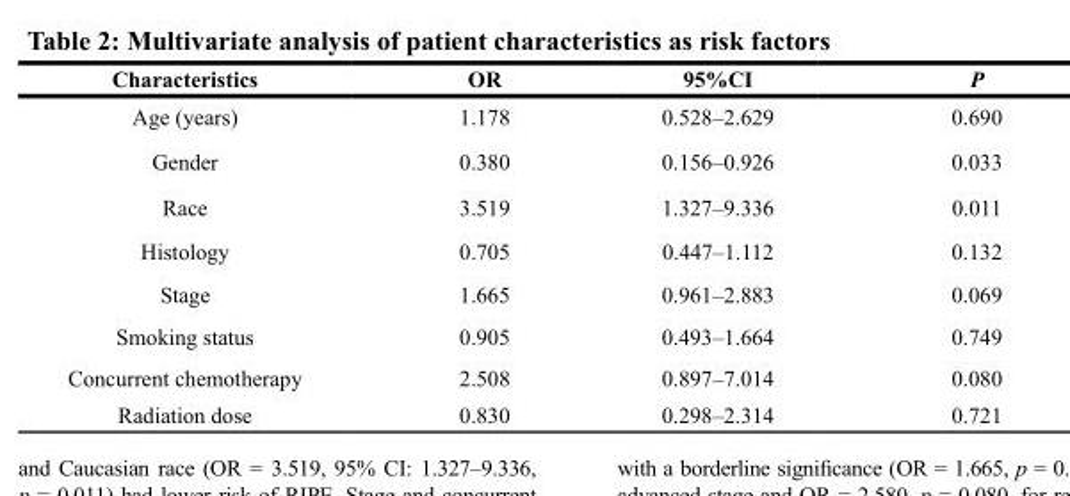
<table><thead><tr><td>Characteristics</td><td>OR</td><td>95%CI</td><td>P</td></tr></thead><tbody><tr><td>Age (years)</td><td>1.178</td><td>0.528–2.629</td><td>0.690</td></tr><tr><td>Gender</td><td>0.380</td><td>0.156–0.926</td><td>0.033</td></tr><tr><td>Race</td><td>3.519</td><td>1.327–9.336</td><td>0.011</td></tr><tr><td>Histology</td><td>0.705</td><td>0.447–1.112</td><td>0.132</td></tr><tr><td>Stage</td><td>1.665</td><td>0.961–2.883</td><td>0.069</td></tr><tr><td>Smoking status</td><td>0.905</td><td>0.493–1.664</td><td>0.749</td></tr><tr><td>Concurrent chemotherapy</td><td>2.508</td><td>0.897–7.014</td><td>0.080</td></tr><tr><td>Radiation dose</td><td>0.830</td><td>0.298–2.314</td><td>0.721</td></tr></tbody></table>